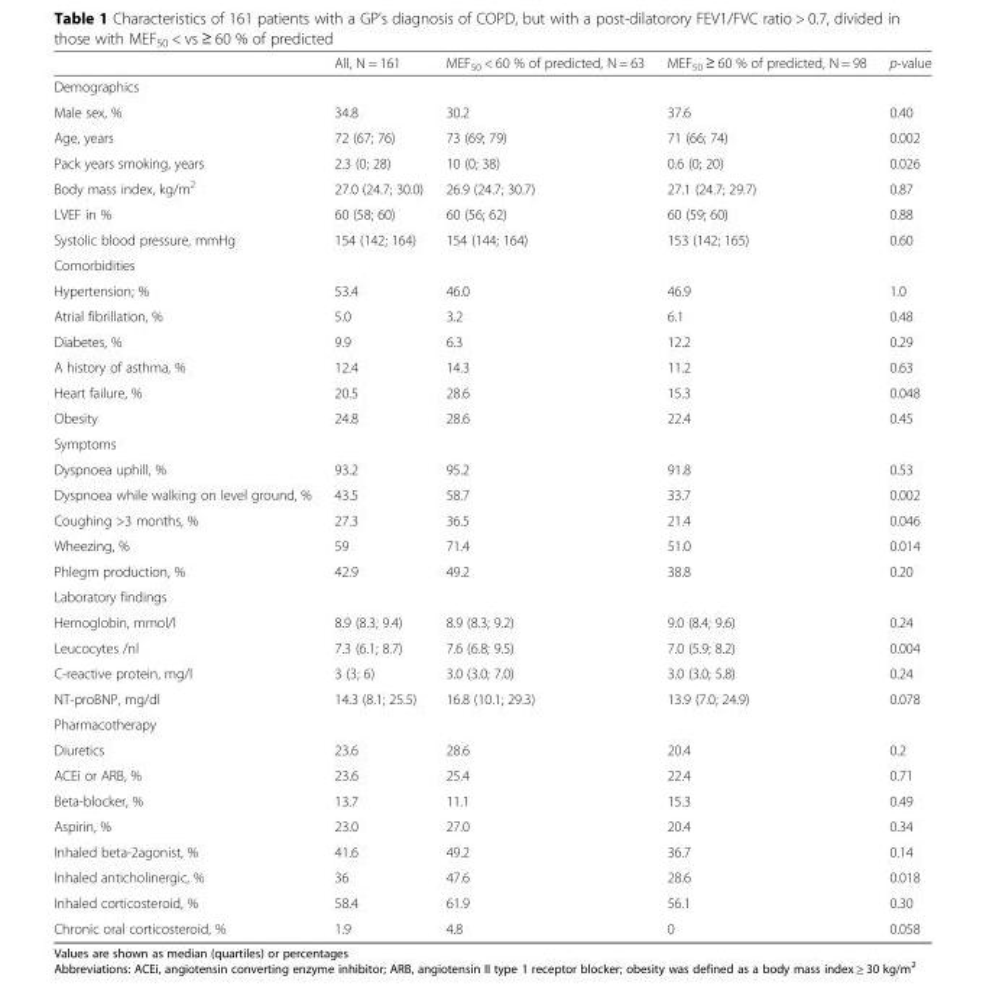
<table><thead><tr><td></td><td>All, N = 161</td><td>MEF<sub>50</sub> &lt; 60 % of predicted, N = 63</td><td>MEF<sub>50</sub> ≥ 60 % of predicted, N = 98</td><td>p-value</td></tr></thead><tbody><tr><td colspan="5">Demographics</td></tr><tr><td>Male sex, %</td><td>34.8</td><td>30.2</td><td>37.6</td><td>0.40</td></tr><tr><td>Age, years</td><td>72 (67; 76)</td><td>73 (69; 79)</td><td>71 (66; 74)</td><td>0.002</td></tr><tr><td>Pack years smoking, years</td><td>2.3 (0; 28)</td><td>10 (0; 38)</td><td>0.6 (0; 20)</td><td>0.026</td></tr><tr><td>Body mass index, kg/m<sup>2</sup></td><td>27.0 (24.7; 30.0)</td><td>26.9 (24.7; 30.7)</td><td>27.1 (24.7; 29.7)</td><td>0.87</td></tr><tr><td>LVEF in %</td><td>60 (58; 60)</td><td>60 (56; 62)</td><td>60 (59; 60)</td><td>0.88</td></tr><tr><td>Systolic blood pressure, mmHg</td><td>154 (142; 164)</td><td>154 (144; 164)</td><td>153 (142; 165)</td><td>0.60</td></tr><tr><td colspan="5">Comorbidities</td></tr><tr><td>Hypertension; %</td><td>53.4</td><td>46.0</td><td>46.9</td><td>1.0</td></tr><tr><td>Atrial fibrillation, %</td><td>5.0</td><td>3.2</td><td>6.1</td><td>0.48</td></tr><tr><td>Diabetes, %</td><td>9.9</td><td>6.3</td><td>12.2</td><td>0.29</td></tr><tr><td>A history of asthma, %</td><td>12.4</td><td>14.3</td><td>11.2</td><td>0.63</td></tr><tr><td>Heart failure, %</td><td>20.5</td><td>28.6</td><td>15.3</td><td>0.048</td></tr><tr><td>Obesity</td><td>24.8</td><td>28.6</td><td>22.4</td><td>0.45</td></tr><tr><td colspan="5">Symptoms</td></tr><tr><td>Dyspnoea uphill, %</td><td>93.2</td><td>95.2</td><td>91.8</td><td>0.53</td></tr><tr><td>Dyspnoea while walking on level ground, %</td><td>43.5</td><td>58.7</td><td>33.7</td><td>0.002</td></tr><tr><td>Coughing &gt;3 months, %</td><td>27.3</td><td>36.5</td><td>21.4</td><td>0.046</td></tr><tr><td>Wheezing, %</td><td>59</td><td>71.4</td><td>51.0</td><td>0.014</td></tr><tr><td>Phlegm production, %</td><td>42.9</td><td>49.2</td><td>38.8</td><td>0.20</td></tr><tr><td colspan="5">Laboratory findings</td></tr><tr><td>Hemoglobin, mmol/l</td><td>8.9 (8.3; 9.4)</td><td>8.9 (8.3; 9.2)</td><td>9.0 (8.4; 9.6)</td><td>0.24</td></tr><tr><td>Leucocytes /nl</td><td>7.3 (6.1; 8.7)</td><td>7.6 (6.8; 9.5)</td><td>7.0 (5.9; 8.2)</td><td>0.004</td></tr><tr><td>C-reactive protein, mg/l</td><td>3 (3; 6)</td><td>3.0 (3.0; 7.0)</td><td>3.0 (3.0; 5.8)</td><td>0.24</td></tr><tr><td>NT-proBNP, mg/dl</td><td>14.3 (8.1; 25.5)</td><td>16.8 (10.1; 29.3)</td><td>13.9 (7.0; 24.9)</td><td>0.078</td></tr><tr><td colspan="5">Pharmacotherapy</td></tr><tr><td>Diuretics</td><td>23.6</td><td>28.6</td><td>20.4</td><td>0.2</td></tr><tr><td>ACEi or ARB, %</td><td>23.6</td><td>25.4</td><td>22.4</td><td>0.71</td></tr><tr><td>Beta-blocker, %</td><td>13.7</td><td>11.1</td><td>15.3</td><td>0.49</td></tr><tr><td>Aspirin, %</td><td>23.0</td><td>27.0</td><td>20.4</td><td>0.34</td></tr><tr><td>Inhaled beta-2agonist, %</td><td>41.6</td><td>49.2</td><td>36.7</td><td>0.14</td></tr><tr><td>Inhaled anticholinergic, %</td><td>36</td><td>47.6</td><td>28.6</td><td>0.018</td></tr><tr><td>Inhaled corticosteroid, %</td><td>58.4</td><td>61.9</td><td>56.1</td><td>0.30</td></tr><tr><td>Chronic oral corticosteroid, %</td><td>1.9</td><td>4.8</td><td>0</td><td>0.058</td></tr></tbody></table>